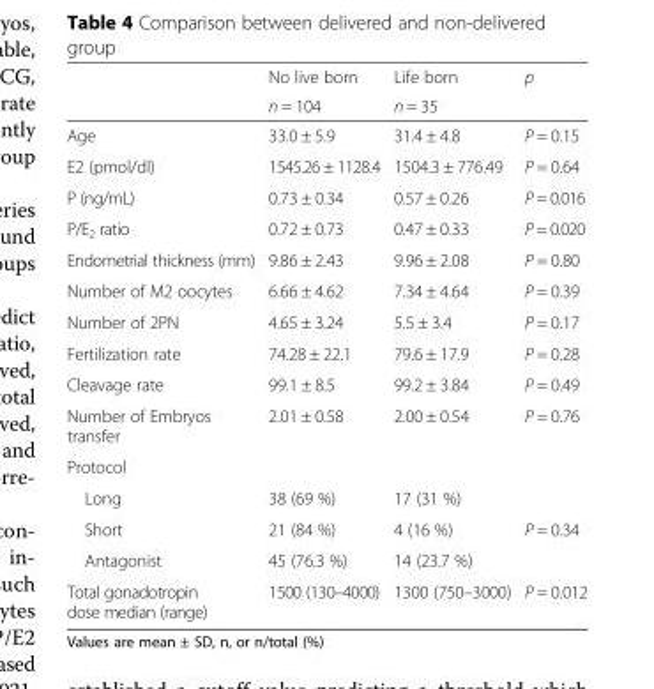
<table><thead><tr><td rowspan="2"></td><td rowspan="2">No live born n = 104</td><td rowspan="2">Life born n = 35</td><td rowspan="2">p</td></tr><tr></tr></thead><tbody><tr><td>Age</td><td>33.0 ± 5.9</td><td>31.4 ± 4.8</td><td>P = 0.15</td></tr><tr><td>E2 (pmol/dl)</td><td>1545.26 ± 1128.4</td><td>1504.3 ± 776.49</td><td>P = 0.64</td></tr><tr><td>P (ng/mL)</td><td>0.73 ± 0.34</td><td>0.57 ± 0.26</td><td>P = 0.016</td></tr><tr><td>P/E<sub>2</sub> ratio</td><td>0.72 ± 0.73</td><td>0.47 ± 0.33</td><td>P = 0.020</td></tr><tr><td>Endometrial thickness (mm)</td><td>9.86 ± 2.43</td><td>9.96 ± 2.08</td><td>P = 0.80</td></tr><tr><td>Number of M2 oocytes</td><td>6.66 ± 4.62</td><td>7.34 ± 4.64</td><td>P = 0.39</td></tr><tr><td>Number of 2PN</td><td>4.65 ± 3.24</td><td>5.5 ± 3.4</td><td>P = 0.17</td></tr><tr><td>Fertilization rate</td><td>74.28 ± 22.1</td><td>79.6 ± 17.9</td><td>P = 0.28</td></tr><tr><td>Cleavage rate</td><td>99.1 ± 8.5</td><td>99.2 ± 3.84</td><td>P = 0.49</td></tr><tr><td>Number of Embryos transfer</td><td>2.01 ± 0.58</td><td>2.00 ± 0.54</td><td>P = 0.76</td></tr><tr><td colspan="4">Protocol</td></tr><tr><td>Long</td><td>38 (69 %)</td><td>17 (31 %)</td><td></td></tr><tr><td>Short</td><td>21 (84 %)</td><td>4 (16 %)</td><td>P = 0.34</td></tr><tr><td>Antagonist</td><td>45 (76.3 %)</td><td>14 (23.7 %)</td><td></td></tr><tr><td>Total gonadotropin dose median (range)</td><td>1500 (130–4000)</td><td>1300 (750–3000)</td><td>P = 0.012</td></tr></tbody></table>